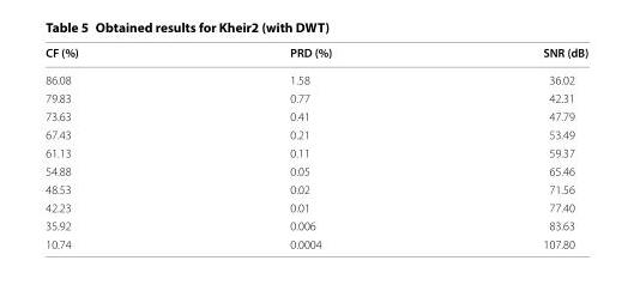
<table><thead><tr><td>CF (%)</td><td>PRD (%)</td><td>SNR (dB)</td></tr></thead><tbody><tr><td>86.08</td><td>1.58</td><td>36.02</td></tr><tr><td>79.83</td><td>0.77</td><td>42.31</td></tr><tr><td>73.63</td><td>0.41</td><td>47.79</td></tr><tr><td>67.43</td><td>0.21</td><td>53.49</td></tr><tr><td>61.13</td><td>0.11</td><td>59.37</td></tr><tr><td>54.88</td><td>0.05</td><td>65.46</td></tr><tr><td>48.53</td><td>0.02</td><td>71.56</td></tr><tr><td>42.23</td><td>0.01</td><td>77.40</td></tr><tr><td>35.92</td><td>0.006</td><td>83.63</td></tr><tr><td>10.74</td><td>0.0004</td><td>107.80</td></tr></tbody></table>